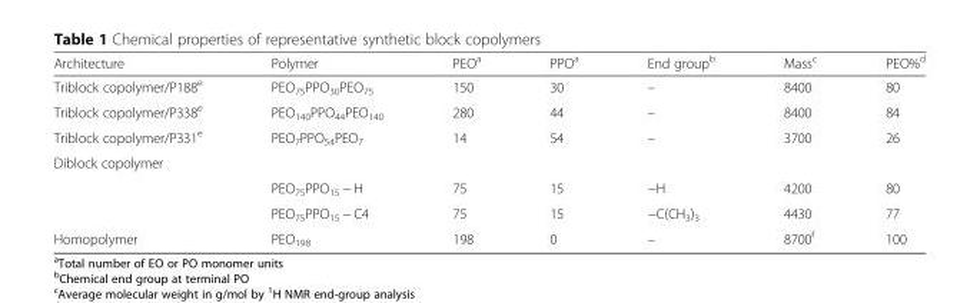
<table><thead><tr><td>Architecture</td><td>Polymer</td><td>PEO<sup>a</sup></td><td>PPO<sup>a</sup></td><td>End group<sup>b</sup></td><td>Mass<sup>c</sup></td><td>PEO%<sup>d</sup></td></tr></thead><tbody><tr><td>Triblock copolymer/P188<sup>e</sup></td><td>PEO<sub>75</sub>PPO<sub>30</sub>PEO<sub>75</sub></td><td>150</td><td>30</td><td>–</td><td>8400</td><td>80</td></tr><tr><td>Triblock copolymer/P338<sup>e</sup></td><td>PEO<sub>140</sub>PPO<sub>44</sub>PEO<sub>140</sub></td><td>280</td><td>44</td><td>–</td><td>8400</td><td>84</td></tr><tr><td>Triblock copolymer/P331<sup>e</sup></td><td>PEO<sub>7</sub>PPO<sub>54</sub>PEO<sub>7</sub></td><td>14</td><td>54</td><td>–</td><td>3700</td><td>26</td></tr><tr><td colspan="7">Diblock copolymer</td></tr><tr><td></td><td>PEO<sub>75</sub>PPO<sub>15</sub> − H</td><td>75</td><td>15</td><td>−H</td><td>4200</td><td>80</td></tr><tr><td></td><td>PEO<sub>75</sub>PPO<sub>15</sub> − C4</td><td>75</td><td>15</td><td>−C(CH<sub>3</sub>)<sub>3</sub></td><td>4430</td><td>77</td></tr><tr><td>Homopolymer</td><td>PEO<sub>198</sub></td><td>198</td><td>0</td><td>–</td><td>8700<sup>f</sup></td><td>100</td></tr></tbody></table>